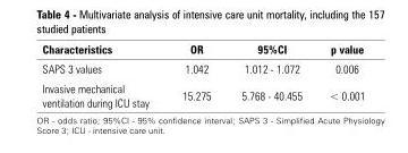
<table><thead><tr><td>Characteristics</td><td>OR</td><td>95%CI</td><td>p value</td></tr></thead><tbody><tr><td>SAPS 3 values</td><td>1.042</td><td>1.012 - 1.072</td><td>0.006</td></tr><tr><td>Invasive mechanical ventilation during ICU stay</td><td>15.275</td><td>5.768 - 40.455</td><td>&lt; 0.001</td></tr></tbody></table>